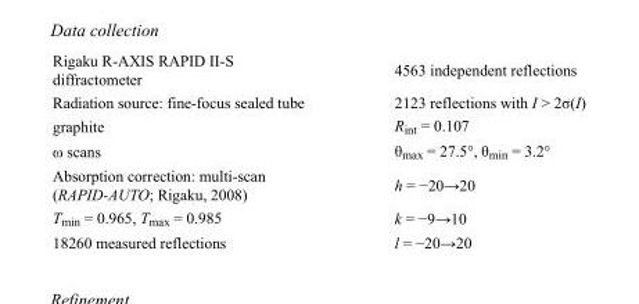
<table><tbody><tr><td>Rigaku R-AXIS RAPID II-S diffractometer</td><td>4563 independent reflections</td></tr><tr><td>Radiation source: fine-focus sealed tube</td><td>2123 reflections with I &gt; 2σ(I)</td></tr><tr><td>graphite</td><td>R<sub>int</sub> = 0.107</td></tr><tr><td>ω scans</td><td>θ<sub>max</sub> = 27.5°, θ<sub>min</sub> = 3.2°</td></tr><tr><td>Absorption correction: multi-scan (RAPID-AUTO; Rigaku, 2008)</td><td>h = −20→20</td></tr><tr><td>T<sub>min</sub> = 0.965, T<sub>max</sub> = 0.985</td><td>k = −9→10</td></tr><tr><td>18260 measured reflections</td><td>l = −20→20</td></tr></tbody></table>